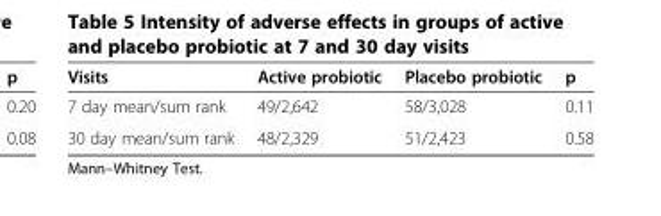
<table><thead><tr><td>Visits</td><td>Active probiotic</td><td>Placebo probiotic</td><td>p</td></tr></thead><tbody><tr><td>7 day mean/sum rank</td><td>49/2,642</td><td>58/3,028</td><td>0.11</td></tr><tr><td>30 day mean/sum rank</td><td>48/2,329</td><td>51/2,423</td><td>0.58</td></tr></tbody></table>